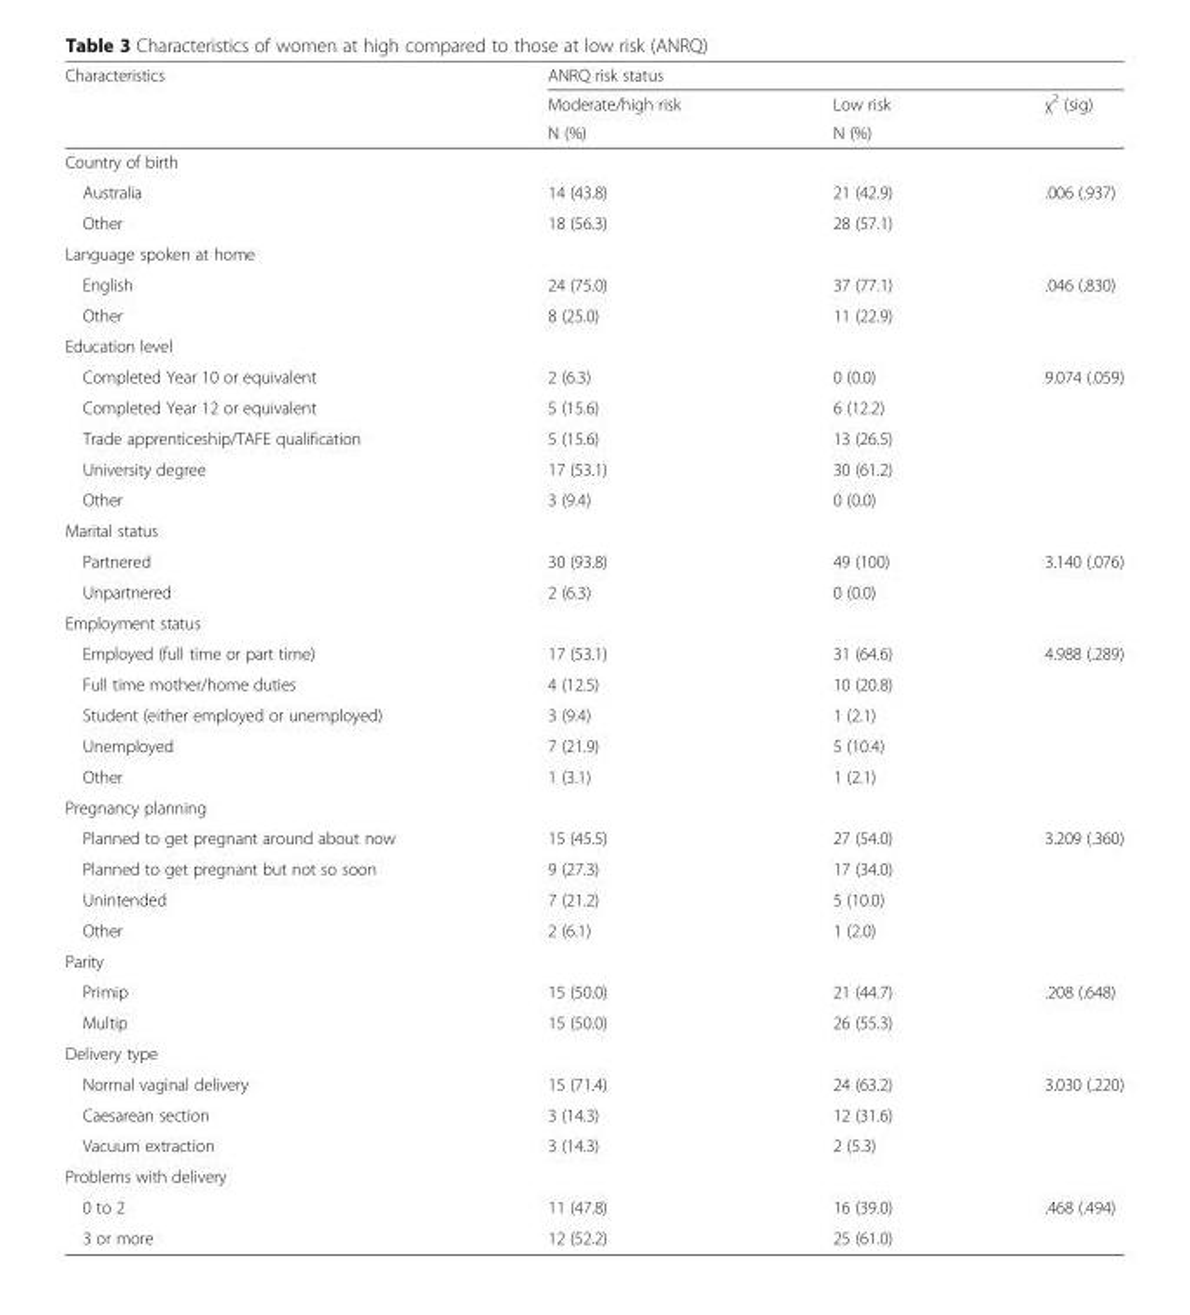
<table><thead><tr><td rowspan="3">Characteristics</td><td colspan="3">ANRQ risk status</td></tr><tr><td rowspan="2">Moderate/high risk N (%)</td><td rowspan="2">Low risk N (%)</td><td rowspan="2">χ<sup>2</sup> (sig)</td></tr><tr></tr></thead><tbody><tr><td colspan="4">Country of birth</td></tr><tr><td>Australia</td><td>14 (43.8)</td><td>21 (42.9)</td><td rowspan="2">.006 (.937)</td></tr><tr><td>Other</td><td>18 (56.3)</td><td>28 (57.1)</td></tr><tr><td colspan="4">Language spoken at home</td></tr><tr><td>English</td><td>24 (75.0)</td><td>37 (77.1)</td><td rowspan="2">.046 (.830)</td></tr><tr><td>Other</td><td>8 (25.0)</td><td>11 (22.9)</td></tr><tr><td colspan="4">Education level</td></tr><tr><td>Completed Year 10 or equivalent</td><td>2 (6.3)</td><td>0 (0.0)</td><td rowspan="5">9.074 (.059)</td></tr><tr><td>Completed Year 12 or equivalent</td><td>5 (15.6)</td><td>6 (12.2)</td></tr><tr><td>Trade apprenticeship/TAFE qualification</td><td>5 (15.6)</td><td>13 (26.5)</td></tr><tr><td>University degree</td><td>17 (53.1)</td><td>30 (61.2)</td></tr><tr><td>Other</td><td>3 (9.4)</td><td>0 (0.0)</td></tr><tr><td colspan="4">Marital status</td></tr><tr><td>Partnered</td><td>30 (93.8)</td><td>49 (100)</td><td rowspan="2">3.140 (.076)</td></tr><tr><td>Unpartnered</td><td>2 (6.3)</td><td>0 (0.0)</td></tr><tr><td colspan="4">Employment status</td></tr><tr><td>Employed (full time or part time)</td><td>17 (53.1)</td><td>31 (64.6)</td><td rowspan="5">4.988 (.289)</td></tr><tr><td>Full time mother/home duties</td><td>4 (12.5)</td><td>10 (20.8)</td></tr><tr><td>Student (either employed or unemployed)</td><td>3 (9.4)</td><td>1 (2.1)</td></tr><tr><td>Unemployed</td><td>7 (21.9)</td><td>5 (10.4)</td></tr><tr><td>Other</td><td>1 (3.1)</td><td>1 (2.1)</td></tr><tr><td colspan="4">Pregnancy planning</td></tr><tr><td>Planned to get pregnant around about now</td><td>15 (45.5)</td><td>27 (54.0)</td><td rowspan="4">3.209 (.360)</td></tr><tr><td>Planned to get pregnant but not so soon</td><td>9 (27.3)</td><td>17 (34.0)</td></tr><tr><td>Unintended</td><td>7 (21.2)</td><td>5 (10.0)</td></tr><tr><td>Other</td><td>2 (6.1)</td><td>1 (2.0)</td></tr><tr><td colspan="4">Parity</td></tr><tr><td>Primip</td><td>15 (50.0)</td><td>21 (44.7)</td><td rowspan="2">.208 (.648)</td></tr><tr><td>Multip</td><td>15 (50.0)</td><td>26 (55.3)</td></tr><tr><td colspan="4">Delivery type</td></tr><tr><td>Normal vaginal delivery</td><td>15 (71.4)</td><td>24 (63.2)</td><td rowspan="3">3.030 (.220)</td></tr><tr><td>Caesarean section</td><td>3 (14.3)</td><td>12 (31.6)</td></tr><tr><td>Vacuum extraction</td><td>3 (14.3)</td><td>2 (5.3)</td></tr><tr><td colspan="4">Problems with delivery</td></tr><tr><td>0 to 2</td><td>11 (47.8)</td><td>16 (39.0)</td><td rowspan="2">.468 (.494)</td></tr><tr><td>3 or more</td><td>12 (52.2)</td><td>25 (61.0)</td></tr></tbody></table>